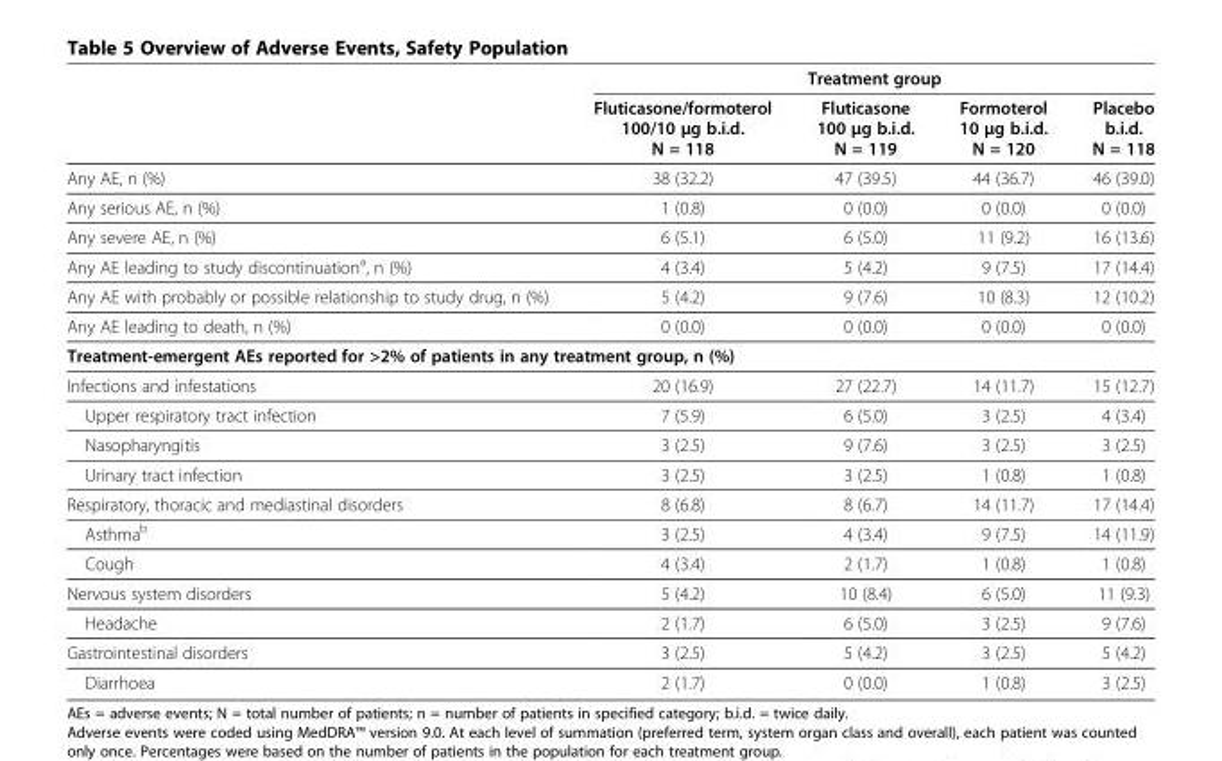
<table><thead><tr><td rowspan="2"></td><td colspan="4">Treatment group</td></tr><tr><td>Fluticasone/formoterol 100/10 μg b.i.d. N = 118</td><td>Fluticasone 100 μg b.i.d. N = 119</td><td>Formoterol 10 μg b.i.d. N = 120</td><td>Placebo b.i.d. N = 118</td></tr></thead><tbody><tr><td>Any AE, n (%)</td><td>38 (32.2)</td><td>47 (39.5)</td><td>44 (36.7)</td><td>46 (39.0)</td></tr><tr><td>Any serious AE, n (%)</td><td>1 (0.8)</td><td>0 (0.0)</td><td>0 (0.0)</td><td>0 (0.0)</td></tr><tr><td>Any severe AE, n (%)</td><td>6 (5.1)</td><td>6 (5.0)</td><td>11 (9.2)</td><td>16 (13.6)</td></tr><tr><td>Any AE leading to study discontinuation<sup>a</sup>, n (%)</td><td>4 (3.4)</td><td>5 (4.2)</td><td>9 (7.5)</td><td>17 (14.4)</td></tr><tr><td>Any AE with probably or possible relationship to study drug, n (%)</td><td>5 (4.2)</td><td>9 (7.6)</td><td>10 (8.3)</td><td>12 (10.2)</td></tr><tr><td>Any AE leading to death, n (%)</td><td>0 (0.0)</td><td>0 (0.0)</td><td>0 (0.0)</td><td>0 (0.0)</td></tr><tr><td colspan="5">Treatment-emergent AEs reported for &gt;2% of patients in any treatment group, n (%)</td></tr><tr><td>Infections and infestations</td><td>20 (16.9)</td><td>27 (22.7)</td><td>14 (11.7)</td><td>15 (12.7)</td></tr><tr><td>Upper respiratory tract infection</td><td>7 (5.9)</td><td>6 (5.0)</td><td>3 (2.5)</td><td>4 (3.4)</td></tr><tr><td>Nasopharyngitis</td><td>3 (2.5)</td><td>9 (7.6)</td><td>3 (2.5)</td><td>3 (2.5)</td></tr><tr><td>Urinary tract infection</td><td>3 (2.5)</td><td>3 (2.5)</td><td>1 (0.8)</td><td>1 (0.8)</td></tr><tr><td>Respiratory, thoracic and mediastinal disorders</td><td>8 (6.8)</td><td>8 (6.7)</td><td>14 (11.7)</td><td>17 (14.4)</td></tr><tr><td>Asthma<sup>b</sup></td><td>3 (2.5)</td><td>4 (3.4)</td><td>9 (7.5)</td><td>14 (11.9)</td></tr><tr><td>Cough</td><td>4 (3.4)</td><td>2 (1.7)</td><td>1 (0.8)</td><td>1 (0.8)</td></tr><tr><td>Nervous system disorders</td><td>5 (4.2)</td><td>10 (8.4)</td><td>6 (5.0)</td><td>11 (9.3)</td></tr><tr><td>Headache</td><td>2 (1.7)</td><td>6 (5.0)</td><td>3 (2.5)</td><td>9 (7.6)</td></tr><tr><td>Gastrointestinal disorders</td><td>3 (2.5)</td><td>5 (4.2)</td><td>3 (2.5)</td><td>5 (4.2)</td></tr><tr><td>Diarrhoea</td><td>2 (1.7)</td><td>0 (0.0)</td><td>1 (0.8)</td><td>3 (2.5)</td></tr></tbody></table>